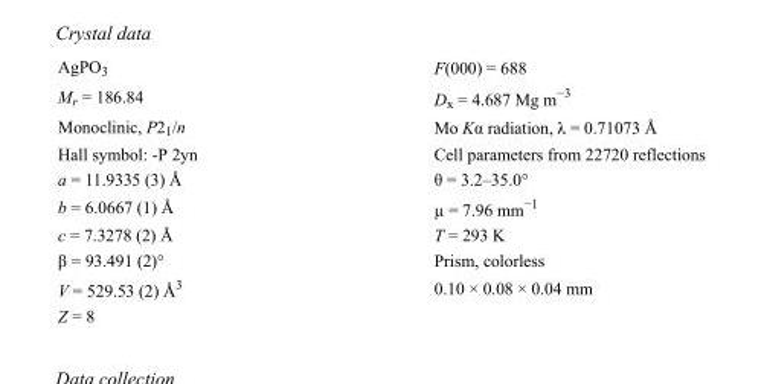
<table><tbody><tr><td>AgPO<sub>3</sub></td><td>F(000) = 688</td></tr><tr><td>M<sub>r</sub> = 186.84</td><td>D<sub>x</sub> = 4.687 Mg m<sup>−3</sup></td></tr><tr><td>Monoclinic, P2<sub>1</sub>/n</td><td>Mo Kα radiation, λ = 0.71073 Å</td></tr><tr><td>Hall symbol: -P 2yn</td><td>Cell parameters from 22720 reflections</td></tr><tr><td>a = 11.9335 (3) Å</td><td>θ = 3.2–35.0°</td></tr><tr><td>b = 6.0667 (1) Å</td><td>µ = 7.96 mm<sup>−1</sup></td></tr><tr><td>c = 7.3278 (2) Å</td><td>T = 293 K</td></tr><tr><td>β = 93.491 (2)°</td><td>Prism, colorless</td></tr><tr><td>V = 529.53 (2) Å<sup>3</sup></td><td>0.10 × 0.08 × 0.04 mm</td></tr><tr><td>Z = 8</td><td></td></tr></tbody></table>